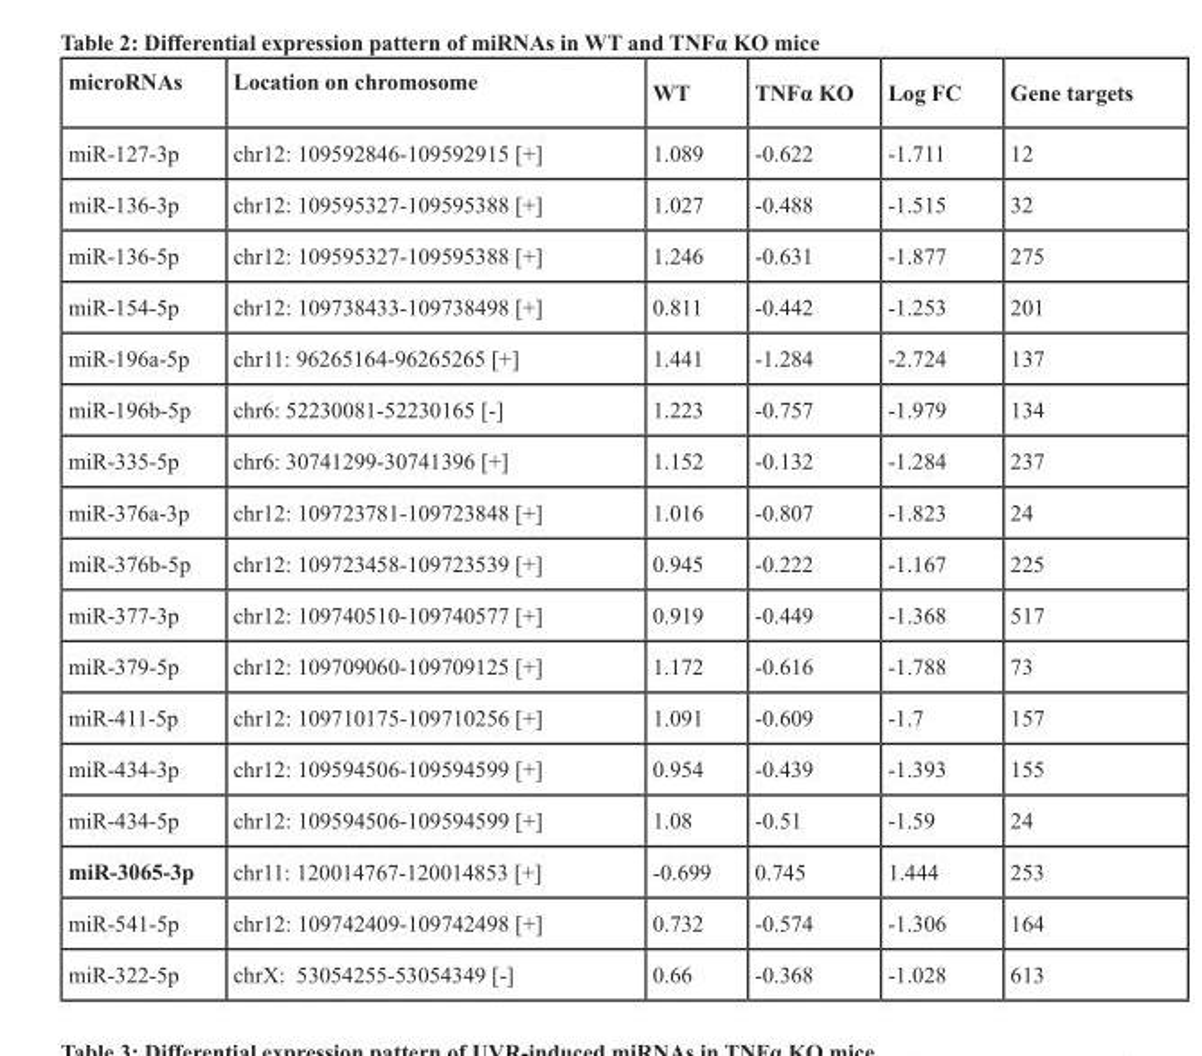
<table><thead><tr><td>microRNAs</td><td>Location on chromosome</td><td>WT</td><td>TNFα KO</td><td>Log FC</td><td>Gene targets</td></tr></thead><tbody><tr><td>miR-127-3p</td><td>chr12: 109592846-109592915 [+]</td><td>1.089</td><td>-0.622</td><td>-1.711</td><td>12</td></tr><tr><td>miR-136-3p</td><td>chr12: 109595327-109595388 [+]</td><td>1.027</td><td>-0.488</td><td>-1.515</td><td>32</td></tr><tr><td>miR-136-5p</td><td>chr12: 109595327-109595388 [+]</td><td>1.246</td><td>-0.631</td><td>-1.877</td><td>275</td></tr><tr><td>miR-154-5p</td><td>chr12: 109738433-109738498 [+]</td><td>0.811</td><td>-0.442</td><td>-1.253</td><td>201</td></tr><tr><td>miR-196a-5p</td><td>chr11: 96265164-96265265 [+]</td><td>1.441</td><td>-1.284</td><td>-2.724</td><td>137</td></tr><tr><td>miR-196b-5p</td><td>chr6: 52230081-52230165 [-]</td><td>1.223</td><td>-0.757</td><td>-1.979</td><td>134</td></tr><tr><td>miR-335-5p</td><td>chr6: 30741299-30741396 [+]</td><td>1.152</td><td>-0.132</td><td>-1.284</td><td>237</td></tr><tr><td>miR-376a-3p</td><td>chr12: 109723781-109723848 [+]</td><td>1.016</td><td>-0.807</td><td>-1.823</td><td>24</td></tr><tr><td>miR-376b-5p</td><td>chr12: 109723458-109723539 [+]</td><td>0.945</td><td>-0.222</td><td>-1.167</td><td>225</td></tr><tr><td>miR-377-3p</td><td>chr12: 109740510-109740577 [+]</td><td>0.919</td><td>-0.449</td><td>-1.368</td><td>517</td></tr><tr><td>miR-379-5p</td><td>chr12: 109709060-109709125 [+]</td><td>1.172</td><td>-0.616</td><td>-1.788</td><td>73</td></tr><tr><td>miR-411-5p</td><td>chr12: 109710175-109710256 [+]</td><td>1.091</td><td>-0.609</td><td>-1.7</td><td>157</td></tr><tr><td>miR-434-3p</td><td>chr12: 109594506-109594599 [+]</td><td>0.954</td><td>-0.439</td><td>-1.393</td><td>155</td></tr><tr><td>miR-434-5p</td><td>chr12: 109594506-109594599 [+]</td><td>1.08</td><td>-0.51</td><td>-1.59</td><td>24</td></tr><tr><td>miR-3065-3p</td><td>chr11: 120014767-120014853 [+]</td><td>-0.699</td><td>0.745</td><td>1.444</td><td>253</td></tr><tr><td>miR-541-5p</td><td>chr12: 109742409-109742498 [+]</td><td>0.732</td><td>-0.574</td><td>-1.306</td><td>164</td></tr><tr><td>miR-322-5p</td><td>chrX: 53054255-53054349 [-]</td><td>0.66</td><td>-0.368</td><td>-1.028</td><td>613</td></tr></tbody></table>